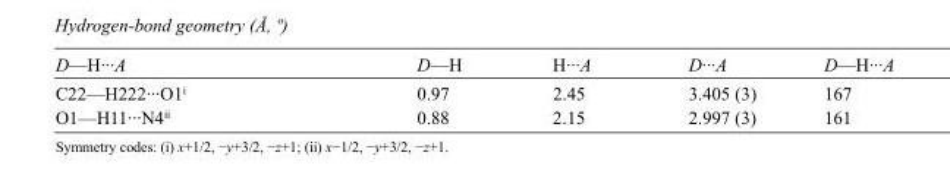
<table><tbody><tr><td>D—H···A</td><td>D—H</td><td>H···A</td><td>D···A</td><td>D—H···A</td></tr><tr><td>C22—H222···O1<sup>i</sup></td><td>0.97</td><td>2.45</td><td>3.405 (3)</td><td>167</td></tr><tr><td>O1—H11···N4<sup>ii</sup></td><td>0.88</td><td>2.15</td><td>2.997 (3)</td><td>161</td></tr></tbody></table>